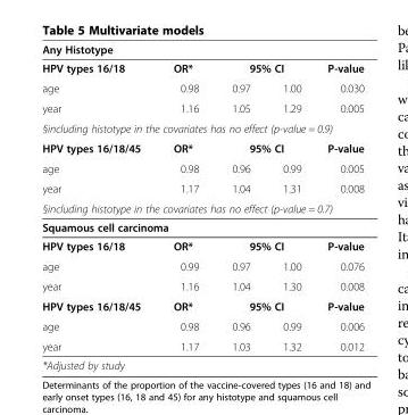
<table><thead><tr><td colspan="5">Any Histotype</td></tr><tr><td rowspan="2">HPV types 16/18 age</td><td rowspan="2">OR* 0.98</td><td colspan="2">95% CI</td><td rowspan="2">P-value 0.030</td></tr><tr><td>0.97</td><td>1.00</td></tr></thead><tbody><tr><td>year</td><td>1.16</td><td>1.05</td><td>1.29</td><td>0.005</td></tr><tr><td colspan="5">§including histotype in the covariates has no effect (p-value = 0.9)</td></tr><tr><td>HPV types 16/18/45</td><td>OR*</td><td colspan="2">95% CI</td><td>P-value</td></tr><tr><td>age</td><td>0.98</td><td>0.96</td><td>0.99</td><td>0.005</td></tr><tr><td>year</td><td>1.17</td><td>1.04</td><td>1.31</td><td>0.008</td></tr><tr><td colspan="5">§including histotype in the covariates has no effect (p-value = 0.7)</td></tr><tr><td colspan="5">Squamous cell carcinoma</td></tr><tr><td>HPV types 16/18</td><td>OR*</td><td colspan="2">95% CI</td><td>P-value</td></tr><tr><td>age</td><td>0.99</td><td>0.97</td><td>1.00</td><td>0.076</td></tr><tr><td>year</td><td>1.16</td><td>1.04</td><td>1.30</td><td>0.008</td></tr><tr><td>HPV types 16/18/45</td><td>OR*</td><td colspan="2">95% CI</td><td>P-value</td></tr><tr><td>age</td><td>0.98</td><td>0.96</td><td>0.99</td><td>0.006</td></tr><tr><td>year</td><td>1.17</td><td>1.03</td><td>1.32</td><td>0.012</td></tr><tr><td colspan="5">*Adjusted by study</td></tr></tbody></table>